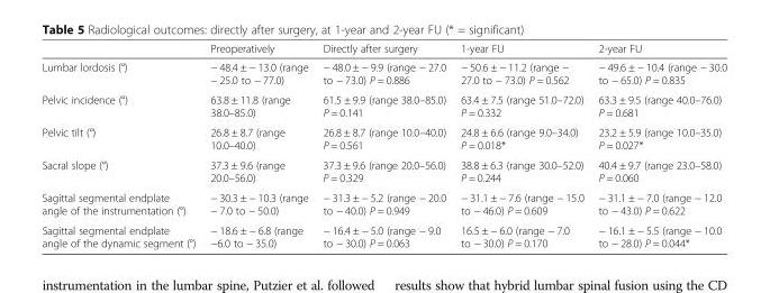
<table><thead><tr><td></td><td>Preoperatively</td><td>Directly after surgery</td><td>1-year FU</td><td>2-year FU</td></tr></thead><tbody><tr><td>Lumbar lordosis (°)</td><td>− 48.4 ± − 13.0 (range − 25.0 to − 77.0)</td><td>− 48.0 ± − 9.9 (range − 27.0 to − 73.0) P = 0.886</td><td>− 50.6 ± − 11.2 (range − 27.0 to − 73.0) P = 0.562</td><td>− 49.6 ± − 10.4 (range − 30.0 to − 65.0) P = 0.835</td></tr><tr><td>Pelvic incidence (°)</td><td>63.8 ± 11.8 (range 38.0–85.0)</td><td>61.5 ± 9.9 (range 38.0–85.0) P = 0.141</td><td>63.4 ± 7.5 (range 51.0–72.0) P = 0.332</td><td>63.3 ± 9.5 (range 40.0–76.0) P = 0.681</td></tr><tr><td>Pelvic tilt (°)</td><td>26.8 ± 8.7 (range 10.0–40.0)</td><td>26.8 ± 8.7 (range 10.0–40.0) P = 0.561</td><td>24.8 ± 6.6 (range 9.0–34.0) P = 0.018*</td><td>23.2 ± 5.9 (range 10.0–35.0) P = 0.027*</td></tr><tr><td>Sacral slope (°)</td><td>37.3 ± 9.6 (range 20.0–56.0)</td><td>37.3 ± 9.6 (range 20.0–56.0) P = 0.329</td><td>38.8 ± 6.3 (range 30.0–52.0) P = 0.244</td><td>40.4 ± 9.7 (range 23.0–58.0) P = 0.060</td></tr><tr><td>Sagittal segmental endplate angle of the instrumentation (°)</td><td>− 30.3 ± − 10.3 (range − 7.0 to − 50.0)</td><td>− 31.3 ± − 5.2 (range − 20.0 to − 40.0) P = 0.949</td><td>− 31.1 ± − 7.6 (range − 15.0 to − 46.0) P = 0.609</td><td>− 31.1 ± − 7.0 (range − 12.0 to − 43.0) P = 0.622</td></tr><tr><td>Sagittal segmental endplate angle of the dynamic segment (°)</td><td>− 18.6 ± − 6.8 (range −6.0 to − 35.0)</td><td>− 16.4 ± − 5.0 (range − 9.0 to − 30.0) P = 0.063</td><td>16.5 ± − 6.0 (range − 7.0 to − 30.0) P = 0.170</td><td>− 16.1 ± − 5.5 (range − 10.0 to − 28.0) P = 0.044*</td></tr></tbody></table>